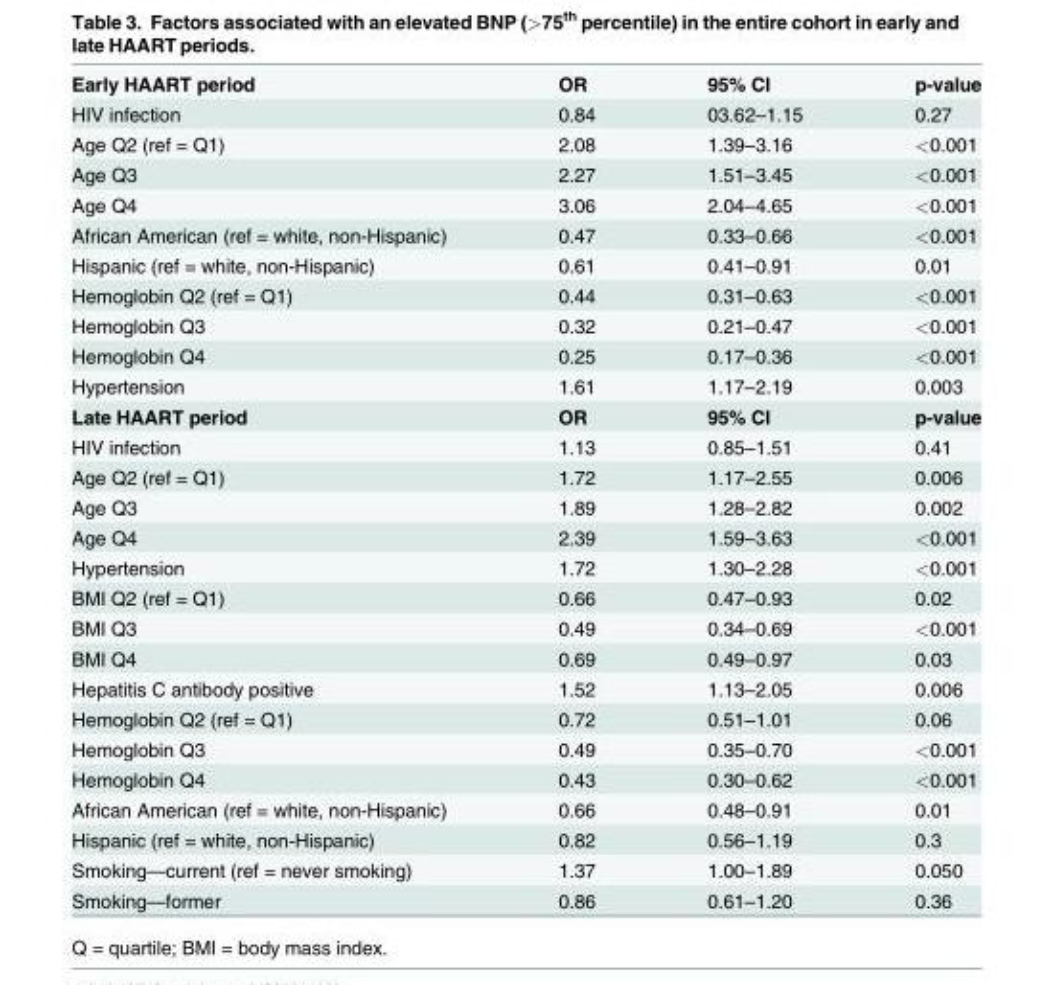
<table><tbody><tr><td>Early HAART period</td><td>OR</td><td>95% CI</td><td>p-value</td></tr><tr><td>HIV infection</td><td>0.84</td><td>03.62–1.15</td><td>0.27</td></tr><tr><td>Age Q2 (ref = Q1)</td><td>2.08</td><td>1.39–3.16</td><td>&lt;0.001</td></tr><tr><td>Age Q3</td><td>2.27</td><td>1.51–3.45</td><td>&lt;0.001</td></tr><tr><td>Age Q4</td><td>3.06</td><td>2.04–4.65</td><td>&lt;0.001</td></tr><tr><td>African American (ref = white, non-Hispanic)</td><td>0.47</td><td>0.33–0.66</td><td>&lt;0.001</td></tr><tr><td>Hispanic (ref = white, non-Hispanic)</td><td>0.61</td><td>0.41–0.91</td><td>0.01</td></tr><tr><td>Hemoglobin Q2 (ref = Q1)</td><td>0.44</td><td>0.31–0.63</td><td>&lt;0.001</td></tr><tr><td>Hemoglobin Q3</td><td>0.32</td><td>0.21–0.47</td><td>&lt;0.001</td></tr><tr><td>Hemoglobin Q4</td><td>0.25</td><td>0.17–0.36</td><td>&lt;0.001</td></tr><tr><td>Hypertension</td><td>1.61</td><td>1.17–2.19</td><td>0.003</td></tr><tr><td>Late HAART period</td><td>OR</td><td>95% CI</td><td>p-value</td></tr><tr><td>HIV infection</td><td>1.13</td><td>0.85–1.51</td><td>0.41</td></tr><tr><td>Age Q2 (ref = Q1)</td><td>1.72</td><td>1.17–2.55</td><td>0.006</td></tr><tr><td>Age Q3</td><td>1.89</td><td>1.28–2.82</td><td>0.002</td></tr><tr><td>Age Q4</td><td>2.39</td><td>1.59–3.63</td><td>&lt;0.001</td></tr><tr><td>Hypertension</td><td>1.72</td><td>1.30–2.28</td><td>&lt;0.001</td></tr><tr><td>BMI Q2 (ref = Q1)</td><td>0.66</td><td>0.47–0.93</td><td>0.02</td></tr><tr><td>BMI Q3</td><td>0.49</td><td>0.34–0.69</td><td>&lt;0.001</td></tr><tr><td>BMI Q4</td><td>0.69</td><td>0.49–0.97</td><td>0.03</td></tr><tr><td>Hepatitis C antibody positive</td><td>1.52</td><td>1.13–2.05</td><td>0.006</td></tr><tr><td>Hemoglobin Q2 (ref = Q1)</td><td>0.72</td><td>0.51–1.01</td><td>0.06</td></tr><tr><td>Hemoglobin Q3</td><td>0.49</td><td>0.35–0.70</td><td>&lt;0.001</td></tr><tr><td>Hemoglobin Q4</td><td>0.43</td><td>0.30–0.62</td><td>&lt;0.001</td></tr><tr><td>African American (ref = white, non-Hispanic)</td><td>0.66</td><td>0.48–0.91</td><td>0.01</td></tr><tr><td>Hispanic (ref = white, non-Hispanic)</td><td>0.82</td><td>0.56–1.19</td><td>0.3</td></tr><tr><td>Smoking—current (ref = never smoking)</td><td>1.37</td><td>1.00–1.89</td><td>0.050</td></tr><tr><td>Smoking—former</td><td>0.86</td><td>0.61–1.20</td><td>0.36</td></tr></tbody></table>